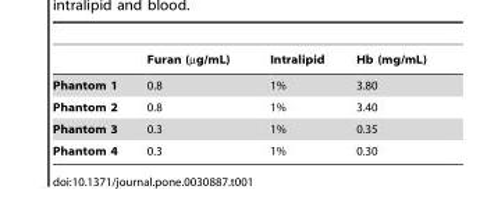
<table><thead><tr><td></td><td>Furan (µg/mL)</td><td>Intralipid</td><td>Hb (mg/mL)</td></tr></thead><tbody><tr><td>Phantom 1</td><td>0.8</td><td>1%</td><td>3.80</td></tr><tr><td>Phantom 2</td><td>0.8</td><td>1%</td><td>3.40</td></tr><tr><td>Phantom 3</td><td>0.3</td><td>1%</td><td>0.35</td></tr><tr><td>Phantom 4</td><td>0.3</td><td>1%</td><td>0.30</td></tr></tbody></table>